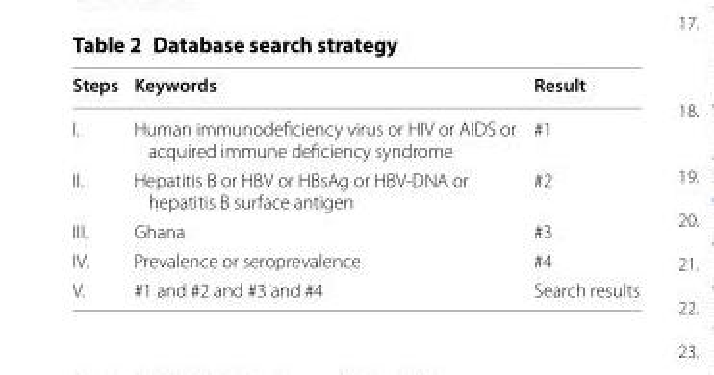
<table><thead><tr><td>Steps</td><td>Keywords</td><td>Result</td></tr></thead><tbody><tr><td>I.</td><td>Human immunodeficiency virus or HIV or AIDS or acquired immune deficiency syndrome</td><td>#1</td></tr><tr><td>II.</td><td>Hepatitis B or HBV or HBsAg or HBV‑DNA or hepatitis B surface antigen</td><td>#2</td></tr><tr><td>III.</td><td>Ghana</td><td>#3</td></tr><tr><td>IV.</td><td>Prevalence or seroprevalence</td><td>#4</td></tr><tr><td>V.</td><td>#1 and #2 and #3 and #4</td><td>Search results</td></tr></tbody></table>